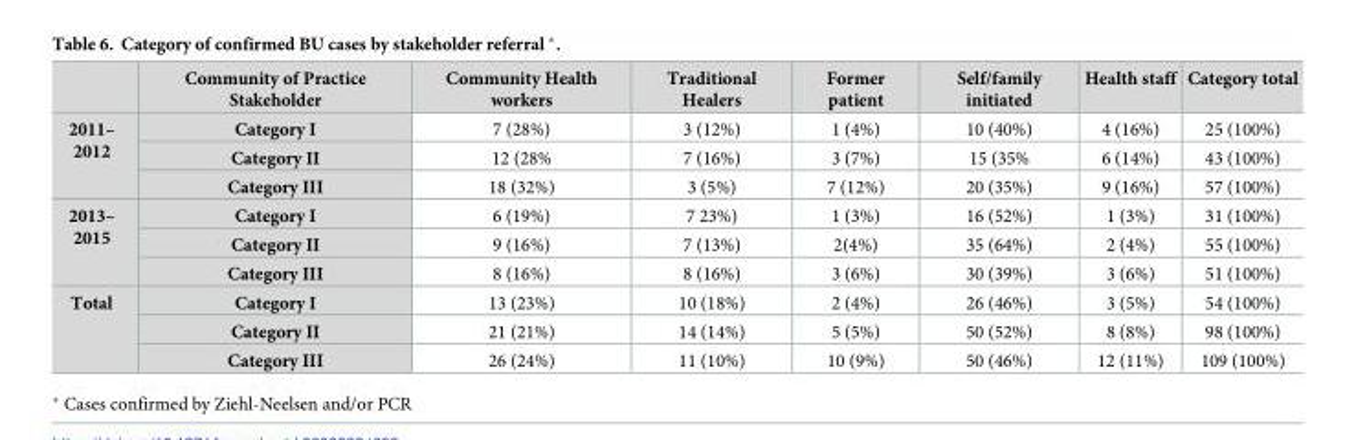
<table><thead><tr><td></td><td>Community of Practice Stakeholder</td><td>Community Health workers</td><td>Traditional Healers</td><td>Former patient</td><td>Self/family initiated</td><td>Health staff</td><td>Category total</td></tr></thead><tbody><tr><td rowspan="3">2011– 2012</td><td>Category I</td><td>7 (28%)</td><td>3 (12%)</td><td>1 (4%)</td><td>10 (40%)</td><td>4 (16%)</td><td>25 (100%)</td></tr><tr><td>Category II</td><td>12 (28%</td><td>7 (16%)</td><td>3 (7%)</td><td>15 (35%</td><td>6 (14%)</td><td>43 (100%)</td></tr><tr><td>Category III</td><td>18 (32%)</td><td>3 (5%)</td><td>7 (12%)</td><td>20 (35%)</td><td>9 (16%)</td><td>57 (100%)</td></tr><tr><td rowspan="3">2013– 2015</td><td>Category I</td><td>6 (19%)</td><td>7 23%)</td><td>1 (3%)</td><td>16 (52%)</td><td>1 (3%)</td><td>31 (100%)</td></tr><tr><td>Category II</td><td>9 (16%)</td><td>7 (13%)</td><td>2(4%)</td><td>35 (64%)</td><td>2 (4%)</td><td>55 (100%)</td></tr><tr><td>Category III</td><td>8 (16%)</td><td>8 (16%)</td><td>3 (6%)</td><td>30 (39%)</td><td>3 (6%)</td><td>51 (100%)</td></tr><tr><td rowspan="3">Total</td><td>Category I</td><td>13 (23%)</td><td>10 (18%)</td><td>2 (4%)</td><td>26 (46%)</td><td>3 (5%)</td><td>54 (100%)</td></tr><tr><td>Category II</td><td>21 (21%)</td><td>14 (14%)</td><td>5 (5%)</td><td>50 (52%)</td><td>8 (8%)</td><td>98 (100%)</td></tr><tr><td>Category III</td><td>26 (24%)</td><td>11 (10%)</td><td>10 (9%)</td><td>50 (46%)</td><td>12 (11%)</td><td>109 (100%)</td></tr></tbody></table>